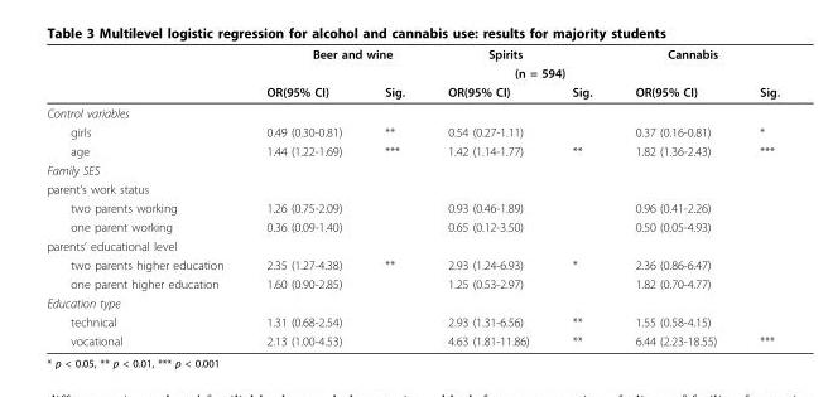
<table><thead><tr><td rowspan="3"></td><td colspan="2">Beer and wine</td><td>Spirits</td><td></td><td>Cannabis</td><td></td></tr><tr><td colspan="6">(n = 594)</td></tr><tr><td>OR(95% CI)</td><td>Sig.</td><td>OR(95% CI)</td><td>Sig.</td><td>OR(95% CI)</td><td>Sig.</td></tr></thead><tbody><tr><td colspan="7">Control variables</td></tr><tr><td>girls</td><td>0.49 (0.30-0.81)</td><td>**</td><td>0.54 (0.27-1.11)</td><td></td><td>0.37 (0.16-0.81)</td><td>*</td></tr><tr><td>age</td><td>1.44 (1.22-1.69)</td><td>***</td><td>1.42 (1.14-1.77)</td><td>**</td><td>1.82 (1.36-2.43)</td><td>***</td></tr><tr><td colspan="7">Family SES</td></tr><tr><td colspan="7">parent’s work status</td></tr><tr><td>two parents working</td><td>1.26 (0.75-2.09)</td><td></td><td>0.93 (0.46-1.89)</td><td></td><td>0.96 (0.41-2.26)</td><td></td></tr><tr><td>one parent working</td><td>0.36 (0.09-1.40)</td><td></td><td>0.65 (0.12-3.50)</td><td></td><td>0.50 (0.05-4.93)</td><td></td></tr><tr><td colspan="7">parents’ educational level</td></tr><tr><td>two parents higher education</td><td>2.35 (1.27-4.38)</td><td>**</td><td>2.93 (1.24-6.93)</td><td>*</td><td>2.36 (0.86-6.47)</td><td></td></tr><tr><td>one parent higher education</td><td>1.60 (0.90-2.85)</td><td></td><td>1.25 (0.53-2.97)</td><td></td><td>1.82 (0.70-4.77)</td><td></td></tr><tr><td colspan="7">Education type</td></tr><tr><td>technical</td><td>1.31 (0.68-2.54)</td><td></td><td>2.93 (1.31-6.56)</td><td>**</td><td>1.55 (0.58-4.15)</td><td></td></tr><tr><td>vocational</td><td>2.13 (1.00-4.53)</td><td></td><td>4.63 (1.81-11.86)</td><td>**</td><td>6.44 (2.23-18.55)</td><td>***</td></tr></tbody></table>